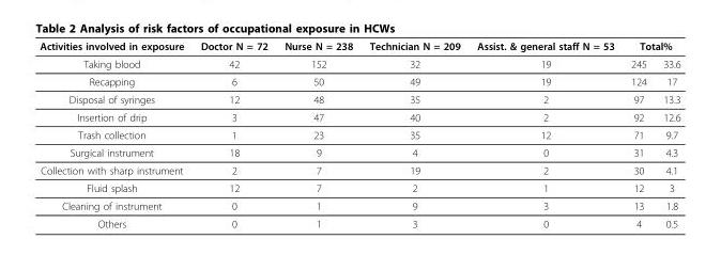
<table><thead><tr><td rowspan="2">Activities involved in exposure Taking blood</td><td rowspan="2">Doctor N = 72 42</td><td rowspan="2">Nurse N = 238 152</td><td rowspan="2">Technician N = 209 32</td><td rowspan="2">Assist. &amp; general staff N = 53 19</td><td colspan="2">Total%</td></tr><tr><td>245</td><td>33.6</td></tr></thead><tbody><tr><td>Recapping</td><td>6</td><td>50</td><td>49</td><td>19</td><td>124</td><td>17</td></tr><tr><td>Disposal of syringes</td><td>12</td><td>48</td><td>35</td><td>2</td><td>97</td><td>13.3</td></tr><tr><td>Insertion of drip</td><td>3</td><td>47</td><td>40</td><td>2</td><td>92</td><td>12.6</td></tr><tr><td>Trash collection</td><td>1</td><td>23</td><td>35</td><td>12</td><td>71</td><td>9.7</td></tr><tr><td>Surgical instrument</td><td>18</td><td>9</td><td>4</td><td>0</td><td>31</td><td>4.3</td></tr><tr><td>Collection with sharp instrument</td><td>2</td><td>7</td><td>19</td><td>2</td><td>30</td><td>4.1</td></tr><tr><td>Fluid splash</td><td>12</td><td>7</td><td>2</td><td>1</td><td>12</td><td>3</td></tr><tr><td>Cleaning of instrument</td><td>0</td><td>1</td><td>9</td><td>3</td><td>13</td><td>1.8</td></tr><tr><td>Others</td><td>0</td><td>1</td><td>3</td><td>0</td><td>4</td><td>0.5</td></tr></tbody></table>